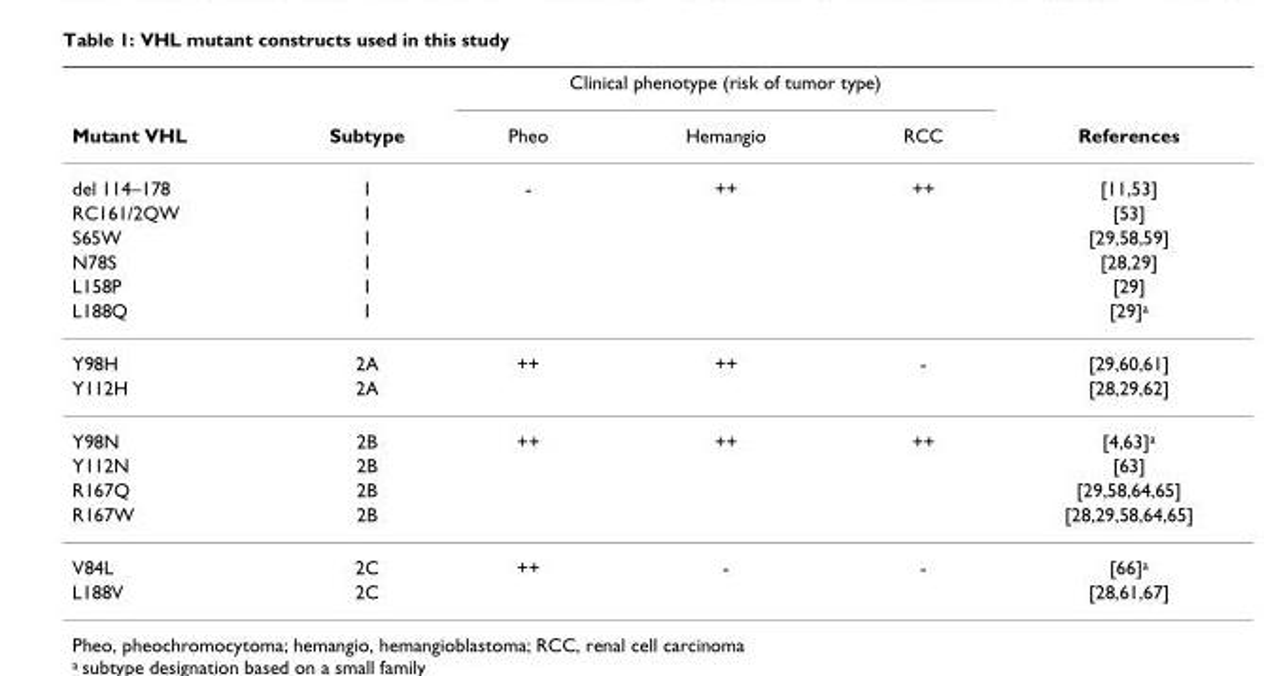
<table><thead><tr><td rowspan="2">Mutant VHL</td><td rowspan="2">Subtype</td><td colspan="3">Clinical phenotype (risk of tumor type)</td><td rowspan="2">References</td></tr><tr><td>Pheo</td><td>Hemangio</td><td>RCC</td></tr></thead><tbody><tr><td>del 114–178</td><td>1</td><td>-</td><td>++</td><td>++</td><td>[11,53]</td></tr><tr><td>RC161/2QW</td><td>1</td><td></td><td></td><td></td><td>[53]</td></tr><tr><td>S65W</td><td>1</td><td></td><td></td><td></td><td>[29,58,59]</td></tr><tr><td>N78S</td><td>1</td><td></td><td></td><td></td><td>[28,29]</td></tr><tr><td>L158P</td><td>1</td><td></td><td></td><td></td><td>[29]</td></tr><tr><td>L188Q</td><td>1</td><td></td><td></td><td></td><td>[29]<sup>a</sup></td></tr><tr><td>Y98H</td><td>2A</td><td>++</td><td>++</td><td>-</td><td>[29,60,61]</td></tr><tr><td>Y112H</td><td>2A</td><td></td><td></td><td></td><td>[28,29,62]</td></tr><tr><td>Y98N</td><td>2B</td><td>++</td><td>++</td><td>++</td><td>[4,63]<sup>a</sup></td></tr><tr><td>Y112N</td><td>2B</td><td></td><td></td><td></td><td>[63]</td></tr><tr><td>R167Q</td><td>2B</td><td></td><td></td><td></td><td>[29,58,64,65]</td></tr><tr><td>R167W</td><td>2B</td><td></td><td></td><td></td><td>[28,29,58,64,65]</td></tr><tr><td>V84L</td><td>2C</td><td>++</td><td>-</td><td>-</td><td>[66]<sup>a</sup></td></tr><tr><td>L188V</td><td>2C</td><td></td><td></td><td></td><td>[28,61,67]</td></tr></tbody></table>